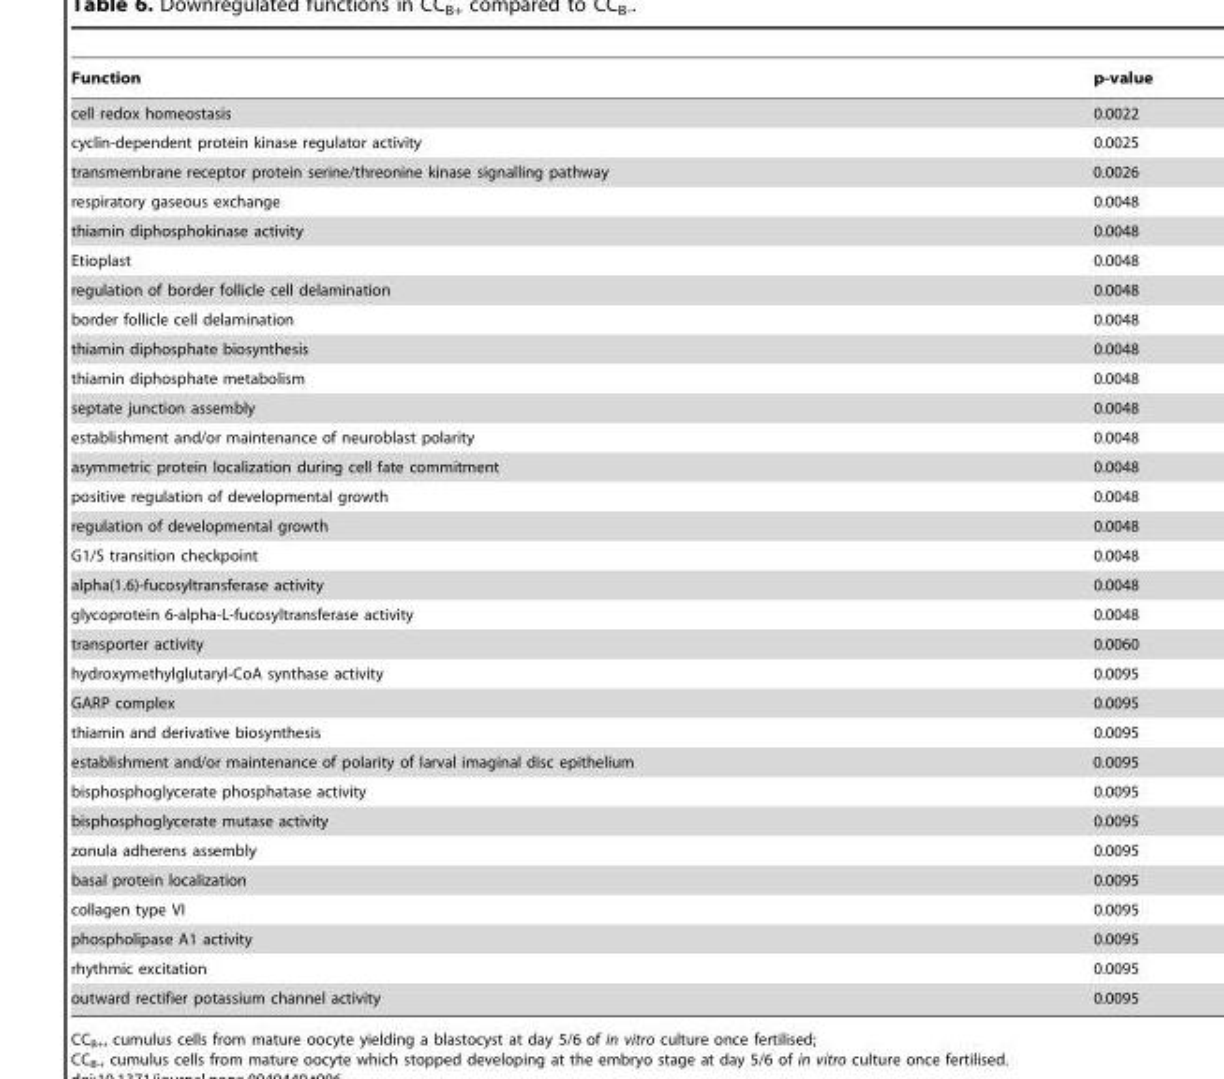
<table><thead><tr><td>Function</td><td>p-value</td></tr></thead><tbody><tr><td>cell redox homeostasis</td><td>0.0022</td></tr><tr><td>cyclin-dependent protein kinase regulator activity</td><td>0.0025</td></tr><tr><td>transmembrane receptor protein serine/threonine kinase signalling pathway</td><td>0.0026</td></tr><tr><td>respiratory gaseous exchange</td><td>0.0048</td></tr><tr><td>thiamin diphosphokinase activity</td><td>0.0048</td></tr><tr><td>Etioplast</td><td>0.0048</td></tr><tr><td>regulation of border follicle cell delamination</td><td>0.0048</td></tr><tr><td>border follicle cell delamination</td><td>0.0048</td></tr><tr><td>thiamin diphosphate biosynthesis</td><td>0.0048</td></tr><tr><td>thiamin diphosphate metabolism</td><td>0.0048</td></tr><tr><td>septate junction assembly</td><td>0.0048</td></tr><tr><td>establishment and/or maintenance of neuroblast polarity</td><td>0.0048</td></tr><tr><td>asymmetric protein localization during cell fate commitment</td><td>0.0048</td></tr><tr><td>positive regulation of developmental growth</td><td>0.0048</td></tr><tr><td>regulation of developmental growth</td><td>0.0048</td></tr><tr><td>G1/S transition checkpoint</td><td>0.0048</td></tr><tr><td>alpha(1.6)-fucosyltransferase activity</td><td>0.0048</td></tr><tr><td>glycoprotein 6-alpha-L-fucosyltransferase activity</td><td>0.0048</td></tr><tr><td>transporter activity</td><td>0.0060</td></tr><tr><td>hydroxymethylglutaryl-CoA synthase activity</td><td>0.0095</td></tr><tr><td>GARP complex</td><td>0.0095</td></tr><tr><td>thiamin and derivative biosynthesis</td><td>0.0095</td></tr><tr><td>establishment and/or maintenance of polarity of larval imaginal disc epithelium</td><td>0.0095</td></tr><tr><td>bisphosphoglycerate phosphatase activity</td><td>0.0095</td></tr><tr><td>bisphosphoglycerate mutase activity</td><td>0.0095</td></tr><tr><td>zonula adherens assembly</td><td>0.0095</td></tr><tr><td>basal protein localization</td><td>0.0095</td></tr><tr><td>collagen type VI</td><td>0.0095</td></tr><tr><td>phospholipase A1 activity</td><td>0.0095</td></tr><tr><td>rhythmic excitation</td><td>0.0095</td></tr><tr><td>outward rectifier potassium channel activity</td><td>0.0095</td></tr></tbody></table>